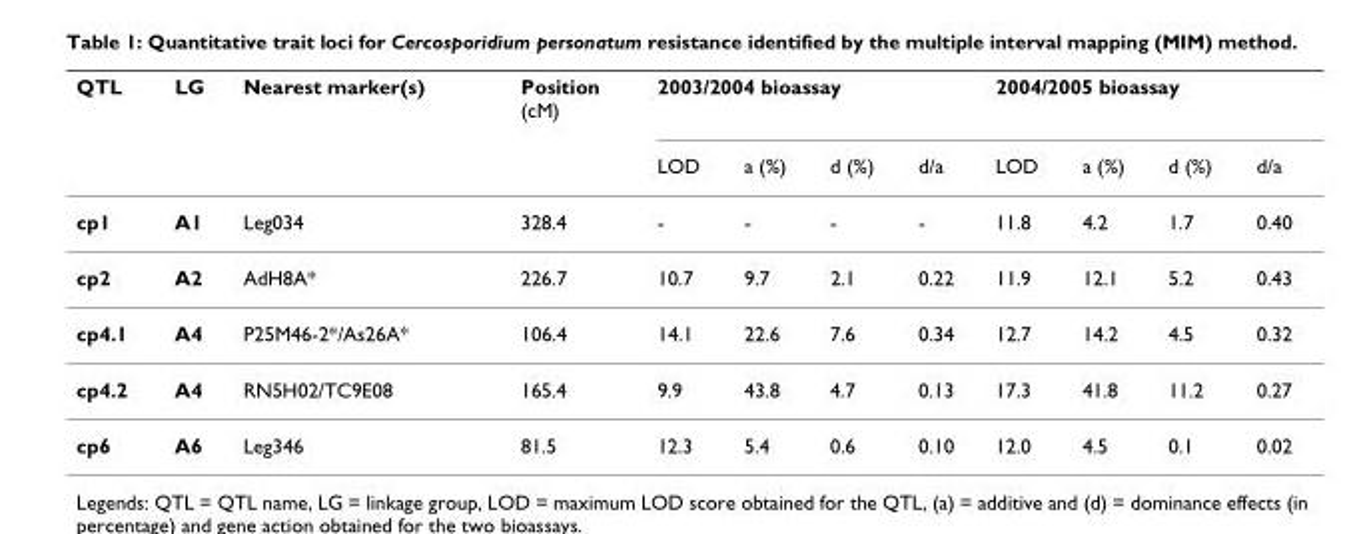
<table><thead><tr><td rowspan="2">QTL</td><td rowspan="2">LG</td><td rowspan="2">Nearest marker(s)</td><td rowspan="2">Position (cM)</td><td colspan="4">2003/2004 bioassay</td><td colspan="4">2004/2005 bioassay</td></tr><tr><td>LOD</td><td>a (%)</td><td>d (%)</td><td>d/a</td><td>LOD</td><td>a (%)</td><td>d (%)</td><td>d/a</td></tr></thead><tbody><tr><td>cp1</td><td>A1</td><td>Leg034</td><td>328.4</td><td>-</td><td>-</td><td>-</td><td>-</td><td>11.8</td><td>4.2</td><td>1.7</td><td>0.40</td></tr><tr><td>cp2</td><td>A2</td><td>AdH8A*</td><td>226.7</td><td>10.7</td><td>9.7</td><td>2.1</td><td>0.22</td><td>11.9</td><td>12.1</td><td>5.2</td><td>0.43</td></tr><tr><td>cp4.1</td><td>A4</td><td>P25M46-2*/As26A*</td><td>106.4</td><td>14.1</td><td>22.6</td><td>7.6</td><td>0.34</td><td>12.7</td><td>14.2</td><td>4.5</td><td>0.32</td></tr><tr><td>cp4.2</td><td>A4</td><td>RN5H02/TC9E08</td><td>165.4</td><td>9.9</td><td>43.8</td><td>4.7</td><td>0.13</td><td>17.3</td><td>41.8</td><td>11.2</td><td>0.27</td></tr><tr><td>cp6</td><td>A6</td><td>Leg346</td><td>81.5</td><td>12.3</td><td>5.4</td><td>0.6</td><td>0.10</td><td>12.0</td><td>4.5</td><td>0.1</td><td>0.02</td></tr></tbody></table>